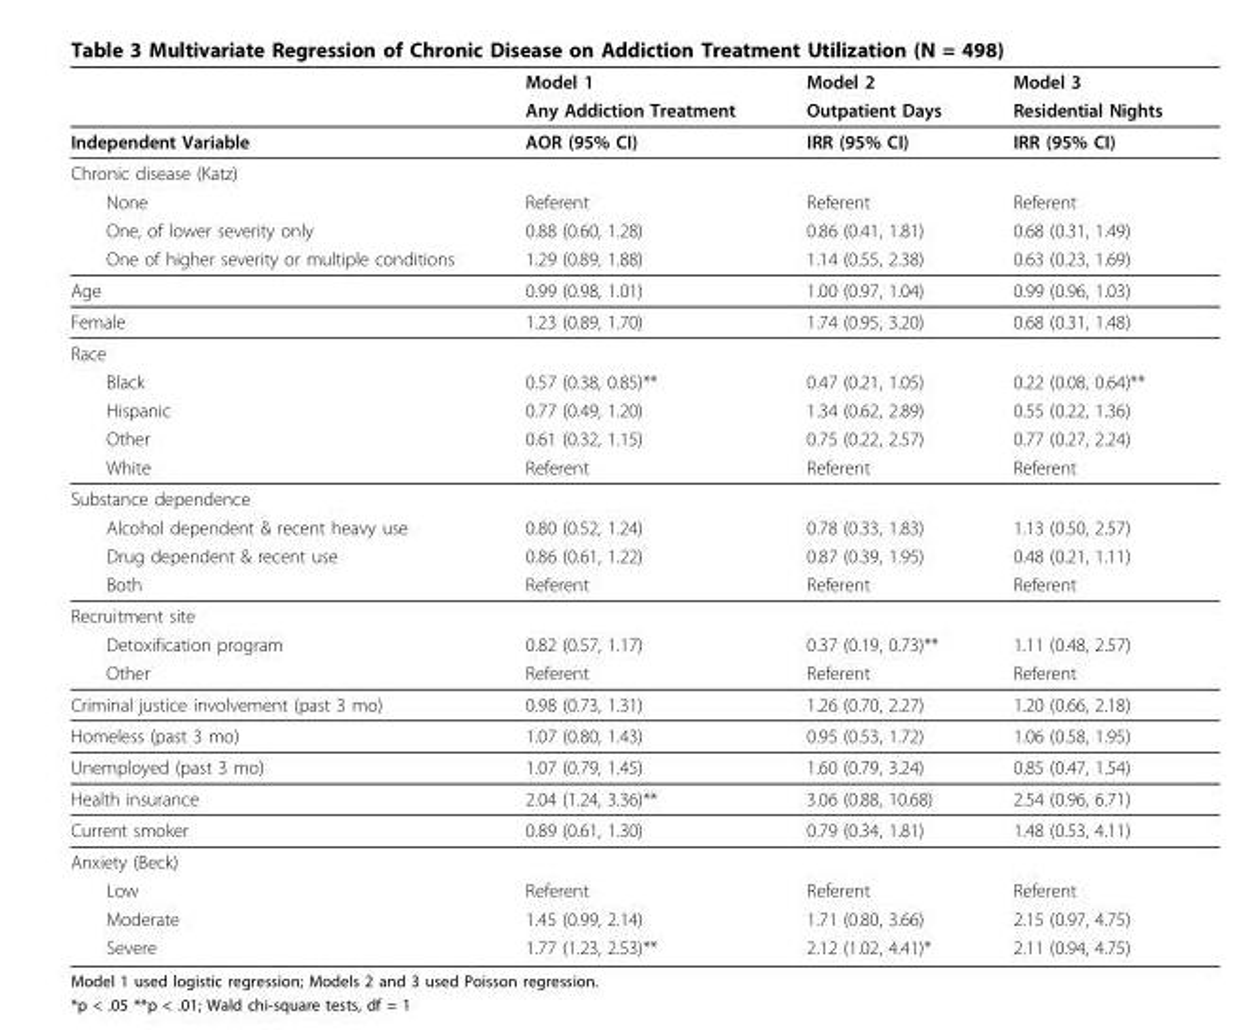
<table><thead><tr><td rowspan="2"></td><td rowspan="2">Model 1 Any Addiction Treatment</td><td rowspan="2">Model 2 Outpatient Days</td><td rowspan="2">Model 3 Residential Nights</td></tr><tr></tr></thead><tbody><tr><td>Independent Variable</td><td>AOR (95% CI)</td><td>IRR (95% CI)</td><td>IRR (95% CI)</td></tr><tr><td colspan="4">Chronic disease (Katz)</td></tr><tr><td>None</td><td>Referent</td><td>Referent</td><td>Referent</td></tr><tr><td>One, of lower severity only</td><td>0.88 (0.60, 1.28)</td><td>0.86 (0.41, 1.81)</td><td>0.68 (0.31, 1.49)</td></tr><tr><td>One of higher severity or multiple conditions</td><td>1.29 (0.89, 1.88)</td><td>1.14 (0.55, 2.38)</td><td>0.63 (0.23, 1.69)</td></tr><tr><td>Age</td><td>0.99 (0.98, 1.01)</td><td>1.00 (0.97, 1.04)</td><td>0.99 (0.96, 1.03)</td></tr><tr><td>Female</td><td>1.23 (0.89, 1.70)</td><td>1.74 (0.95, 3.20)</td><td>0.68 (0.31, 1.48)</td></tr><tr><td colspan="4">Race</td></tr><tr><td>Black</td><td>0.57 (0.38, 0.85)**</td><td>0.47 (0.21, 1.05)</td><td>0.22 (0.08, 0.64)**</td></tr><tr><td>Hispanic</td><td>0.77 (0.49, 1.20)</td><td>1.34 (0.62, 2.89)</td><td>0.55 (0.22, 1.36)</td></tr><tr><td>Other</td><td>0.61 (0.32, 1.15)</td><td>0.75 (0.22, 2.57)</td><td>0.77 (0.27, 2.24)</td></tr><tr><td>White</td><td>Referent</td><td>Referent</td><td>Referent</td></tr><tr><td colspan="4">Substance dependence</td></tr><tr><td>Alcohol dependent &amp; recent heavy use</td><td>0.80 (0.52, 1.24)</td><td>0.78 (0.33, 1.83)</td><td>1.13 (0.50, 2.57)</td></tr><tr><td>Drug dependent &amp; recent use</td><td>0.86 (0.61, 1.22)</td><td>0.87 (0.39, 1.95)</td><td>0.48 (0.21, 1.11)</td></tr><tr><td>Both</td><td>Referent</td><td>Referent</td><td>Referent</td></tr><tr><td colspan="4">Recruitment site</td></tr><tr><td>Detoxification program</td><td>0.82 (0.57, 1.17)</td><td>0.37 (0.19, 0.73)**</td><td>1.11 (0.48, 2.57)</td></tr><tr><td>Other</td><td>Referent</td><td>Referent</td><td>Referent</td></tr><tr><td>Criminal justice involvement (past 3 mo)</td><td>0.98 (0.73, 1.31)</td><td>1.26 (0.70, 2.27)</td><td>1.20 (0.66, 2.18)</td></tr><tr><td>Homeless (past 3 mo)</td><td>1.07 (0.80, 1.43)</td><td>0.95 (0.53, 1.72)</td><td>1.06 (0.58, 1.95)</td></tr><tr><td>Unemployed (past 3 mo)</td><td>1.07 (0.79, 1.45)</td><td>1.60 (0.79, 3.24)</td><td>0.85 (0.47, 1.54)</td></tr><tr><td>Health insurance</td><td>2.04 (1.24, 3.36)**</td><td>3.06 (0.88, 10.68)</td><td>2.54 (0.96, 6.71)</td></tr><tr><td>Current smoker</td><td>0.89 (0.61, 1.30)</td><td>0.79 (0.34, 1.81)</td><td>1.48 (0.53, 4.11)</td></tr><tr><td colspan="4">Anxiety (Beck)</td></tr><tr><td>Low</td><td>Referent</td><td>Referent</td><td>Referent</td></tr><tr><td>Moderate</td><td>1.45 (0.99, 2.14)</td><td>1.71 (0.80, 3.66)</td><td>2.15 (0.97, 4.75)</td></tr><tr><td>Severe</td><td>1.77 (1.23, 2.53)**</td><td>2.12 (1.02, 4.41)*</td><td>2.11 (0.94, 4.75)</td></tr></tbody></table>